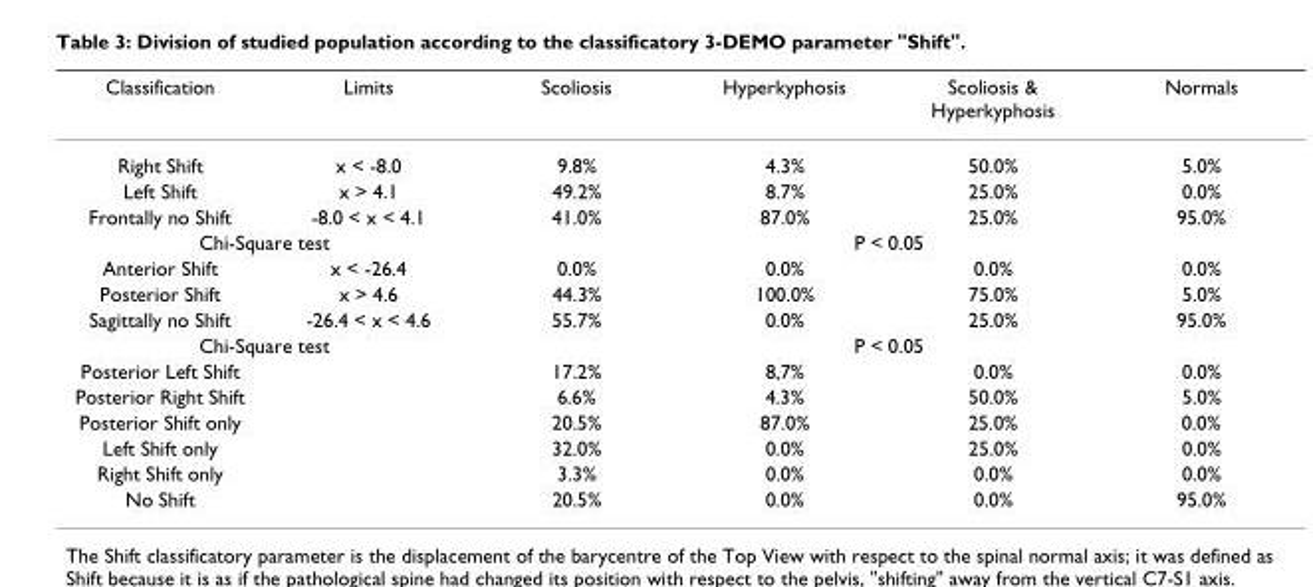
<table><thead><tr><td>Classification</td><td>Limits</td><td>Scoliosis</td><td>Hyperkyphosis</td><td>Scoliosis &amp; Hyperkyphosis</td><td>Normals</td></tr></thead><tbody><tr><td>Right Shift</td><td>x &lt; -8.0</td><td>9.8%</td><td>4.3%</td><td>50.0%</td><td>5.0%</td></tr><tr><td>Left Shift</td><td>x &gt; 4.1</td><td>49.2%</td><td>8.7%</td><td>25.0%</td><td>0.0%</td></tr><tr><td>Frontally no Shift</td><td>-8.0 &lt; x &lt; 4.1</td><td>41.0%</td><td>87.0%</td><td>25.0%</td><td>95.0%</td></tr><tr><td colspan="2">Chi-Square test</td><td colspan="4">P &lt; 0.05</td></tr><tr><td>Anterior Shift</td><td>x &lt; -26.4</td><td>0.0%</td><td>0.0%</td><td>0.0%</td><td>0.0%</td></tr><tr><td>Posterior Shift</td><td>x &gt; 4.6</td><td>44.3%</td><td>100.0%</td><td>75.0%</td><td>5.0%</td></tr><tr><td>Sagittally no Shift</td><td>-26.4 &lt; x &lt; 4.6</td><td>55.7%</td><td>0.0%</td><td>25.0%</td><td>95.0%</td></tr><tr><td colspan="2">Chi-Square test</td><td colspan="4">P &lt; 0.05</td></tr><tr><td>Posterior Left Shift</td><td></td><td>17.2%</td><td>8,7%</td><td>0.0%</td><td>0.0%</td></tr><tr><td>Posterior Right Shift</td><td></td><td>6.6%</td><td>4.3%</td><td>50.0%</td><td>5.0%</td></tr><tr><td>Posterior Shift only</td><td></td><td>20.5%</td><td>87.0%</td><td>25.0%</td><td>0.0%</td></tr><tr><td>Left Shift only</td><td></td><td>32.0%</td><td>0.0%</td><td>25.0%</td><td>0.0%</td></tr><tr><td>Right Shift only</td><td></td><td>3.3%</td><td>0.0%</td><td>0.0%</td><td>0.0%</td></tr><tr><td>No Shift</td><td></td><td>20.5%</td><td>0.0%</td><td>0.0%</td><td>95.0%</td></tr></tbody></table>